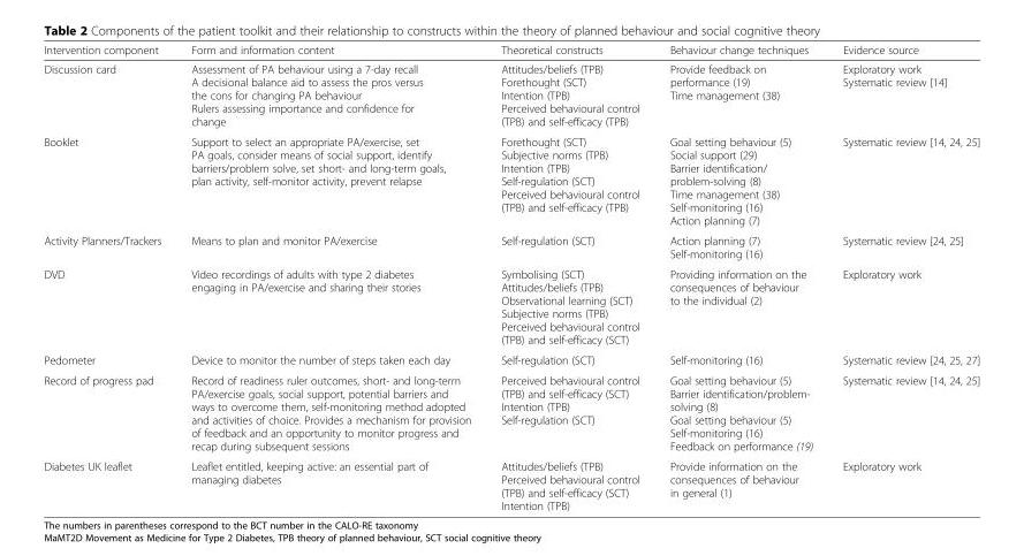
<table><thead><tr><td>Intervention component</td><td>Form and information content</td><td>Theoretical constructs</td><td>Behaviour change techniques</td><td>Evidence source</td></tr></thead><tbody><tr><td>Discussion card</td><td>Assessment of PA behaviour using a 7-day recall A decisional balance aid to assess the pros versus the cons for changing PA behaviour Rulers assessing importance and confidence for change</td><td>Attitudes/beliefs (TPB) Forethought (SCT) Intention (TPB) Perceived behavioural control (TPB) and self-efficacy (TPB)</td><td>Provide feedback on performance (19) Time management (38)</td><td>Exploratory work Systematic review [14]</td></tr><tr><td>Booklet</td><td>Support to select an appropriate PA/exercise, set PA goals, consider means of social support, identify barriers/problem solve, set short- and long-term goals, plan activity, self-monitor activity, prevent relapse</td><td>Forethought (SCT) Subjective norms (TPB) Intention (TPB) Self-regulation (SCT) Perceived behavioural control (TPB) and self-efficacy (TPB)</td><td>Goal setting behaviour (5) Social support (29) Barrier identification/ problem-solving (8) Time management (38) Self-monitoring (16) Action planning (7)</td><td>Systematic review [14, 24, 25]</td></tr><tr><td>Activity Planners/Trackers</td><td>Means to plan and monitor PA/exercise</td><td>Self-regulation (SCT)</td><td>Action planning (7) Self-monitoring (16)</td><td>Systematic review [24, 25]</td></tr><tr><td>DVD</td><td>Video recordings of adults with type 2 diabetes engaging in PA/exercise and sharing their stories</td><td>Symbolising (SCT) Attitudes/beliefs (TPB) Observational learning (SCT) Subjective norms (TPB) Perceived behavioural control (TPB) and self-efficacy (SCT)</td><td>Providing information on the consequences of behaviour to the individual (2)</td><td>Exploratory work</td></tr><tr><td>Pedometer</td><td>Device to monitor the number of steps taken each day</td><td>Self-regulation (SCT)</td><td>Self-monitoring (16)</td><td>Systematic review [24, 25, 27]</td></tr><tr><td>Record of progress pad</td><td>Record of readiness ruler outcomes, short- and long-term PA/exercise goals, social support, potential barriers and ways to overcome them, self-monitoring method adopted and activities of choice. Provides a mechanism for provision of feedback and an opportunity to monitor progress and recap during subsequent sessions</td><td>Perceived behavioural control (TPB) and self-efficacy (SCT) Intention (TPB) Self-regulation (SCT)</td><td>Goal setting behaviour (5) Barrier identification/problem- solving (8) Goal setting behaviour (5) Self-monitoring (16) Feedback on performance (19)</td><td>Systematic review [14, 24, 25]</td></tr><tr><td>Diabetes UK leaflet</td><td>Leaflet entitled, keeping active: an essential part of managing diabetes</td><td>Attitudes/beliefs (TPB) Perceived behavioural control (TPB) and self-efficacy (SCT) Intention (TPB)</td><td>Provide information on the consequences of behaviour in general (1)</td><td>Exploratory work</td></tr></tbody></table>